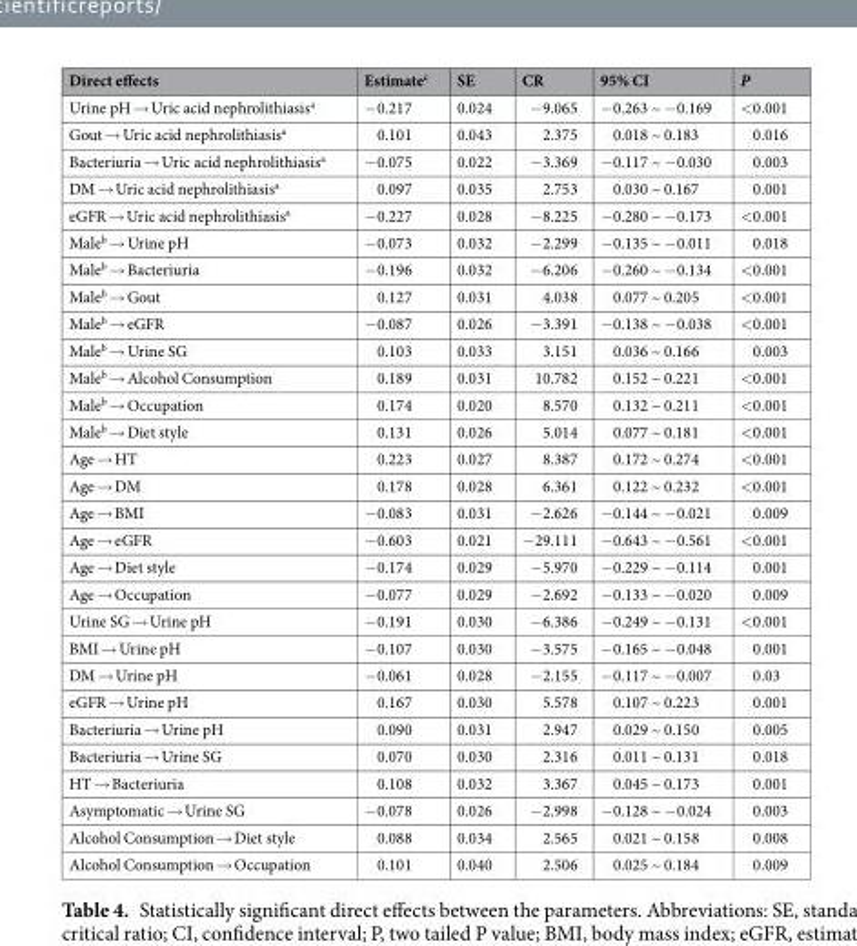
<table><thead><tr><td>Direct effects</td><td>Estimate<sup>c</sup></td><td>SE</td><td>CR</td><td>95% CI</td><td>P</td></tr></thead><tbody><tr><td>Urine pH → Uric acid nephrolithiasis<sup>a</sup></td><td>−0.217</td><td>0.024</td><td>−9.065</td><td>−0.263 ~ −0.169</td><td>&lt;0.001</td></tr><tr><td>Gout → Uric acid nephrolithiasis<sup>a</sup></td><td>0.101</td><td>0.043</td><td>2.375</td><td>0.018 ~ 0.183</td><td>0.016</td></tr><tr><td>Bacteriuria → Uric acid nephrolithiasis<sup>a</sup></td><td>−0.075</td><td>0.022</td><td>−3.369</td><td>−0.117 ~ −0.030</td><td>0.003</td></tr><tr><td>DM → Uric acid nephrolithiasis<sup>a</sup></td><td>0.097</td><td>0.035</td><td>2.753</td><td>0.030 ~ 0.167</td><td>0.001</td></tr><tr><td>eGFR → Uric acid nephrolithiasis<sup>a</sup></td><td>−0.227</td><td>0.028</td><td>−8.225</td><td>−0.280 ~ −0.173</td><td>&lt;0.001</td></tr><tr><td>Male<sup>b</sup> → Urine pH</td><td>−0.073</td><td>0.032</td><td>−2.299</td><td>−0.135 ~ −0.011</td><td>0.018</td></tr><tr><td>Male<sup>b</sup> → Bacteriuria</td><td>−0.196</td><td>0.032</td><td>−6.206</td><td>−0.260 ~ −0.134</td><td>&lt;0.001</td></tr><tr><td>Male<sup>b</sup> → Gout</td><td>0.127</td><td>0.031</td><td>4.038</td><td>0.077 ~ 0.205</td><td>&lt;0.001</td></tr><tr><td>Male<sup>b</sup> → eGFR</td><td>−0.087</td><td>0.026</td><td>−3.391</td><td>−0.138 ~ −0.038</td><td>&lt;0.001</td></tr><tr><td>Male<sup>b</sup> → Urine SG</td><td>0.103</td><td>0.033</td><td>3.151</td><td>0.036 ~ 0.166</td><td>0.003</td></tr><tr><td>Male<sup>b</sup> → Alcohol Consumption</td><td>0.189</td><td>0.031</td><td>10.782</td><td>0.152 ~ 0.221</td><td>&lt;0.001</td></tr><tr><td>Male<sup>b</sup> → Occupation</td><td>0.174</td><td>0.020</td><td>8.570</td><td>0.132 ~ 0.211</td><td>&lt;0.001</td></tr><tr><td>Male<sup>b</sup> → Diet style</td><td>0.131</td><td>0.026</td><td>5.014</td><td>0.077 ~ 0.181</td><td>&lt;0.001</td></tr><tr><td>Age → HT</td><td>0.223</td><td>0.027</td><td>8.387</td><td>0.172 ~ 0.274</td><td>&lt;0.001</td></tr><tr><td>Age → DM</td><td>0.178</td><td>0.028</td><td>6.361</td><td>0.122 ~ 0.232</td><td>&lt;0.001</td></tr><tr><td>Age → BMI</td><td>−0.083</td><td>0.031</td><td>−2.626</td><td>−0.144 ~ −0.021</td><td>0.009</td></tr><tr><td>Age → eGFR</td><td>−0.603</td><td>0.021</td><td>−29.111</td><td>−0.643 ~ −0.561</td><td>&lt;0.001</td></tr><tr><td>Age → Diet style</td><td>−0.174</td><td>0.029</td><td>−5.970</td><td>−0.229 ~ −0.114</td><td>0.001</td></tr><tr><td>Age → Occupation</td><td>−0.077</td><td>0.029</td><td>−2.692</td><td>−0.133 ~ −0.020</td><td>0.009</td></tr><tr><td>Urine SG → Urine pH</td><td>−0.191</td><td>0.030</td><td>−6.386</td><td>−0.249 ~ −0.131</td><td>&lt;0.001</td></tr><tr><td>BMI → Urine pH</td><td>−0.107</td><td>0.030</td><td>−3.575</td><td>−0.165 ~ −0.048</td><td>0.001</td></tr><tr><td>DM → Urine pH</td><td>−0.061</td><td>0.028</td><td>−2.155</td><td>−0.117 ~ −0.007</td><td>0.03</td></tr><tr><td>eGFR → Urine pH</td><td>0.167</td><td>0.030</td><td>5.578</td><td>0.107 ~ 0.223</td><td>0.001</td></tr><tr><td>Bacteriuria → Urine pH</td><td>0.090</td><td>0.031</td><td>2.947</td><td>0.029 ~ 0.150</td><td>0.005</td></tr><tr><td>Bacteriuria → Urine SG</td><td>0.070</td><td>0.030</td><td>2.316</td><td>0.011 ~ 0.131</td><td>0.018</td></tr><tr><td>HT → Bacteriuria</td><td>0.108</td><td>0.032</td><td>3.367</td><td>0.045 ~ 0.173</td><td>0.001</td></tr><tr><td>Asymptomatic → Urine SG</td><td>−0.078</td><td>0.026</td><td>−2.998</td><td>−0.128 ~ −0.024</td><td>0.003</td></tr><tr><td>Alcohol Consumption → Diet style</td><td>0.088</td><td>0.034</td><td>2.565</td><td>0.021 ~ 0.158</td><td>0.008</td></tr><tr><td>Alcohol Consumption → Occupation</td><td>0.101</td><td>0.040</td><td>2.506</td><td>0.025 ~ 0.184</td><td>0.009</td></tr></tbody></table>